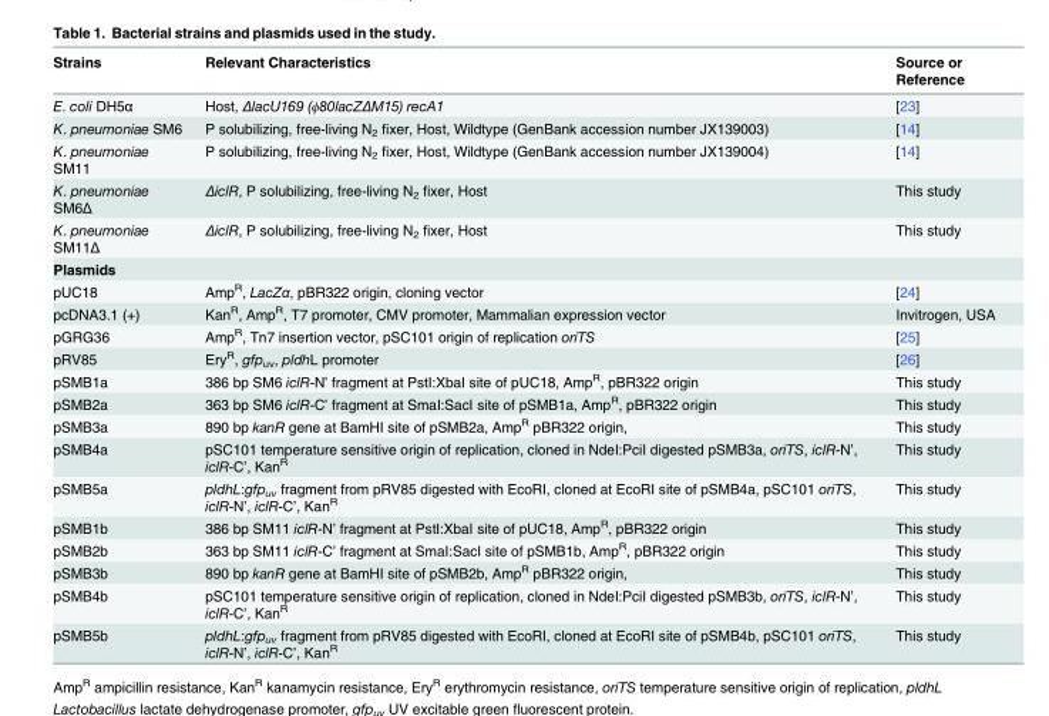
<table><thead><tr><td>Strains</td><td>Relevant Characteristics</td><td>Source or Reference</td></tr></thead><tbody><tr><td>E. coli DH5α</td><td>Host, ΔlacU169 (ϕ80lacZΔM15) recA1</td><td>[23]</td></tr><tr><td>K. pneumoniae SM6</td><td>P solubilizing, free-living N<sub>2</sub> fixer, Host, Wildtype (GenBank accession number JX139003)</td><td>[14]</td></tr><tr><td>K. pneumoniae SM11</td><td>P solubilizing, free-living N<sub>2</sub> fixer, Host, Wildtype (GenBank accession number JX139004)</td><td>[14]</td></tr><tr><td>K. pneumoniae SM6Δ</td><td>ΔiclR, P solubilizing, free-living N<sub>2</sub> fixer, Host</td><td>This study</td></tr><tr><td>K. pneumoniae SM11Δ</td><td>ΔiclR, P solubilizing, free-living N<sub>2</sub> fixer, Host</td><td>This study</td></tr><tr><td colspan="3">Plasmids</td></tr><tr><td>pUC18</td><td>Amp<sup>R</sup>, LacZα, pBR322 origin, cloning vector</td><td>[24]</td></tr><tr><td>pcDNA3.1 (+)</td><td>Kan<sup>R</sup>, Amp<sup>R</sup>, T7 promoter, CMV promoter, Mammalian expression vector</td><td>Invitrogen, USA</td></tr><tr><td>pGRG36</td><td>Amp<sup>R</sup>, Tn7 insertion vector, pSC101 origin of replication oriTS</td><td>[25]</td></tr><tr><td>pRV85</td><td>Ery<sup>R</sup>, gfp<sub>uv</sub>, pldhL promoter</td><td>[26]</td></tr><tr><td>pSMB1a</td><td>386 bp SM6 iclR-N’ fragment at PstI:XbaI site of pUC18, Amp<sup>R</sup>, pBR322 origin</td><td>This study</td></tr><tr><td>pSMB2a</td><td>363 bp SM6 iclR-C’ fragment at SmaI:SacI site of pSMB1a, Amp<sup>R</sup>, pBR322 origin</td><td>This study</td></tr><tr><td>pSMB3a</td><td>890 bp kanR gene at BamHI site of pSMB2a, Amp<sup>R</sup> pBR322 origin,</td><td>This study</td></tr><tr><td>pSMB4a</td><td>pSC101 temperature sensitive origin of replication, cloned in NdeI:PciI digested pSMB3a, oriTS, iclR-N’, iclR-C’, Kan<sup>R</sup></td><td>This study</td></tr><tr><td>pSMB5a</td><td>pldhL:gfp<sub>uv</sub> fragment from pRV85 digested with EcoRI, cloned at EcoRI site of pSMB4a, pSC101 oriTS, iclR-N’, iclR-C’, Kan<sup>R</sup></td><td>This study</td></tr><tr><td>pSMB1b</td><td>386 bp SM11 iclR-N’ fragment at PstI:XbaI site of pUC18, Amp<sup>R</sup>, pBR322 origin</td><td>This study</td></tr><tr><td>pSMB2b</td><td>363 bp SM11 iclR-C’ fragment at SmaI:SacI site of pSMB1b, Amp<sup>R</sup>, pBR322 origin</td><td>This study</td></tr><tr><td>pSMB3b</td><td>890 bp kanR gene at BamHI site of pSMB2b, Amp<sup>R</sup> pBR322 origin,</td><td>This study</td></tr><tr><td>pSMB4b</td><td>pSC101 temperature sensitive origin of replication, cloned in NdeI:PciI digested pSMB3b, oriTS, iclR-N’, iclR-C’, Kan<sup>R</sup></td><td>This study</td></tr><tr><td>pSMB5b</td><td>pldhL:gfp<sub>uv</sub> fragment from pRV85 digested with EcoRI, cloned at EcoRI site of pSMB4b, pSC101 oriTS, iclR-N’, iclR-C’, Kan<sup>R</sup></td><td>This study</td></tr></tbody></table>